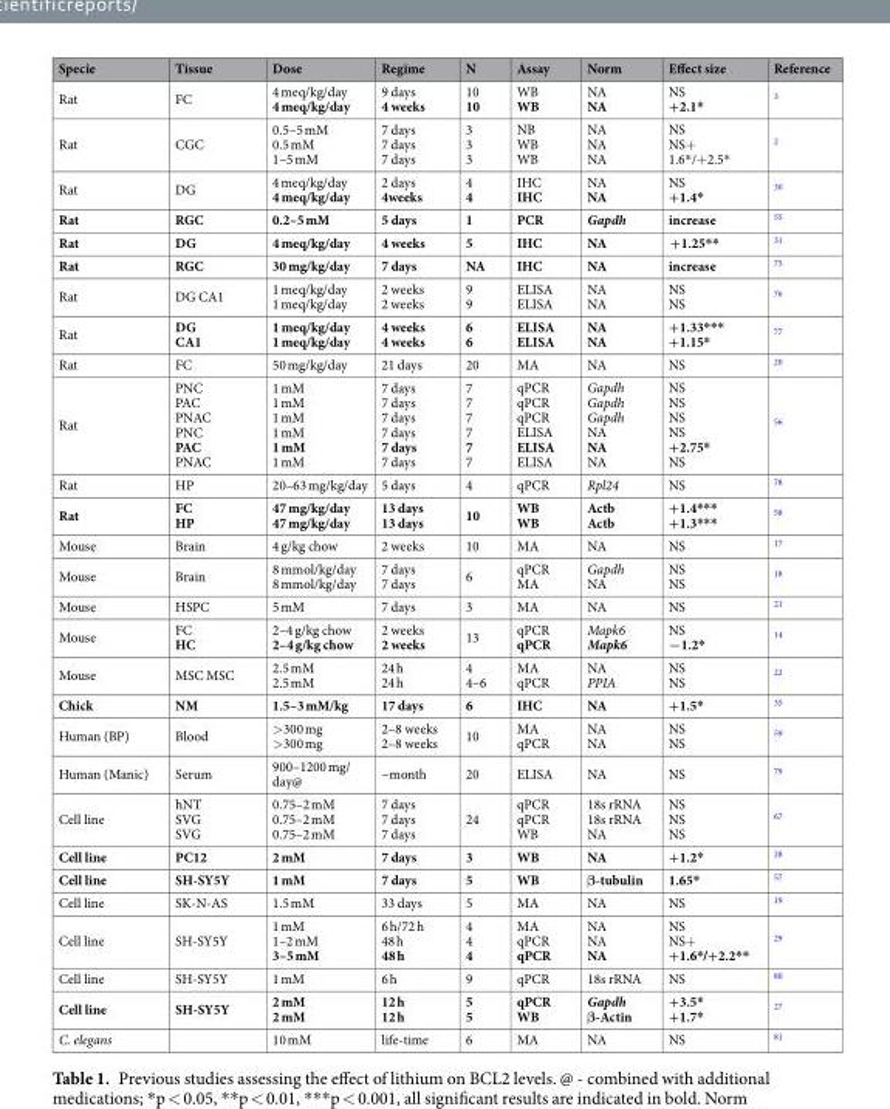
<table><thead><tr><td>Specie</td><td>Tissue</td><td>Dose</td><td>Regime</td><td>N</td><td>Assay</td><td>Norm</td><td>Effect size</td><td>Reference</td></tr></thead><tbody><tr><td>Rat</td><td>FC</td><td>4 meq/kg/day 4 meq/kg/day</td><td>9 days 4 weeks</td><td>10 10</td><td>WB WB</td><td>NA NA</td><td>NS +2.1*</td><td><sup>3</sup></td></tr><tr><td>Rat</td><td>CGC</td><td>0.5–5 mM 0.5 mM 1–5 mM</td><td>7 days 7 days 7 days</td><td>3 3 3</td><td>NB WB WB</td><td>NA NA NA</td><td>NS NS+ 1.6*/+2.5*</td><td><sup>2</sup></td></tr><tr><td>Rat</td><td>DG</td><td>4 meq/kg/day 4 meq/kg/day</td><td>2 days 4weeks</td><td>4 4</td><td>IHC IHC</td><td>NA NA</td><td>NS +1.4*</td><td><sup>30</sup></td></tr><tr><td>Rat</td><td>RGC</td><td>0.2–5 mM</td><td>5 days</td><td>1</td><td>PCR</td><td>Gapdh</td><td>increase</td><td><sup>55</sup></td></tr><tr><td>Rat</td><td>DG</td><td>4 meq/kg/day</td><td>4 weeks</td><td>5</td><td>IHC</td><td>NA</td><td>+1.25**</td><td><sup>31</sup></td></tr><tr><td>Rat</td><td>RGC</td><td>30 mg/kg/day</td><td>7 days</td><td>NA</td><td>IHC</td><td>NA</td><td>increase</td><td><sup>75</sup></td></tr><tr><td>Rat</td><td>DG CA1</td><td>1 meq/kg/day 1 meq/kg/day</td><td>2 weeks 2 weeks</td><td>9 9</td><td>ELISA ELISA</td><td>NA NA</td><td>NS NS</td><td><sup>76</sup></td></tr><tr><td>Rat</td><td>DG CA1</td><td>1 meq/kg/day 1 meq/kg/day</td><td>4 weeks 4 weeks</td><td>6 6</td><td>ELISA ELISA</td><td>NA NA</td><td>+1.33*** +1.15*</td><td><sup>77</sup></td></tr><tr><td>Rat</td><td>FC</td><td>50 mg/kg/day</td><td>21 days</td><td>20</td><td>MA</td><td>NA</td><td>NS</td><td><sup>20</sup></td></tr><tr><td>Rat</td><td>PNC PAC PNAC PNC PAC PNAC</td><td>1 mM 1 mM 1 mM 1 mM 1 mM 1 mM</td><td>7 days 7 days 7 days 7 days 7 days 7 days</td><td>7 7 7 7 7 7</td><td>qPCR qPCR qPCR ELISA ELISA ELISA</td><td>Gapdh Gapdh Gapdh NA NA NA</td><td>NS NS NS NS +2.75* NS</td><td><sup>56</sup></td></tr><tr><td>Rat</td><td>HP</td><td>20–63 mg/kg/day</td><td>5 days</td><td>4</td><td>qPCR</td><td>Rpl24</td><td>NS</td><td><sup>78</sup></td></tr><tr><td>Rat</td><td>FC HP</td><td>47 mg/kg/day 47 mg/kg/day</td><td>13 days 13 days</td><td>10</td><td>WB WB</td><td>Actb Actb</td><td>+1.4*** +1.3***</td><td><sup>58</sup></td></tr><tr><td>Mouse</td><td>Brain</td><td>4 g/kg chow</td><td>2 weeks</td><td>10</td><td>MA</td><td>NA</td><td>NS</td><td><sup>17</sup></td></tr><tr><td>Mouse</td><td>Brain</td><td>8 mmol/kg/day 8 mmol/kg/day</td><td>7 days 7 days</td><td>6</td><td>qPCR MA</td><td>Gapdh NA</td><td>NS NS</td><td><sup>18</sup></td></tr><tr><td>Mouse</td><td>HSPC</td><td>5 mM</td><td>7 days</td><td>3</td><td>MA</td><td>NA</td><td>NS</td><td><sup>21</sup></td></tr><tr><td>Mouse</td><td>FC HC</td><td>2–4 g/kg chow 2–4 g/kg chow</td><td>2 weeks 2 weeks</td><td>13</td><td>qPCR qPCR</td><td>Mapk6 Mapk6</td><td>NS −1.2*</td><td><sup>14</sup></td></tr><tr><td>Mouse</td><td>MSC MSC</td><td>2.5 mM 2.5 mM</td><td>24 h 24 h</td><td>4 4–6</td><td>MA qPCR</td><td>NA PPIA</td><td>NS NS</td><td><sup>22</sup></td></tr><tr><td>Chick</td><td>NM</td><td>1.5–3 mM/kg</td><td>17 days</td><td>6</td><td>IHC</td><td>NA</td><td>+1.5*</td><td><sup>35</sup></td></tr><tr><td>Human (BP)</td><td>Blood</td><td>&gt;300 mg &gt;300 mg</td><td>2–8 weeks 2–8 weeks</td><td>10</td><td>MA qPCR</td><td>NA NA</td><td>NS NS</td><td><sup>59</sup></td></tr><tr><td>Human (Manic)</td><td>Serum</td><td>900–1200 mg/ day@</td><td>~month</td><td>20</td><td>ELISA</td><td>NA</td><td>NS</td><td><sup>79</sup></td></tr><tr><td>Cell line</td><td>hNT SVG SVG</td><td>0.75–2 mM 0.75–2 mM 0.75–2 mM</td><td>7 days 7 days 7 days</td><td>24</td><td>qPCR qPCR WB</td><td>18s rRNA 18s rRNA NA</td><td>NS NS NS</td><td><sup>67</sup></td></tr><tr><td>Cell line</td><td>PC12</td><td>2 mM</td><td>7 days</td><td>3</td><td>WB</td><td>NA</td><td>+1.2*</td><td><sup>28</sup></td></tr><tr><td>Cell line</td><td>SH-SY5Y</td><td>1 mM</td><td>7 days</td><td>5</td><td>WB</td><td>β-tubulin</td><td>1.65*</td><td><sup>57</sup></td></tr><tr><td>Cell line</td><td>SK-N-AS</td><td>1.5 mM</td><td>33 days</td><td>5</td><td>MA</td><td>NA</td><td>NS</td><td><sup>19</sup></td></tr><tr><td>Cell line</td><td>SH-SY5Y</td><td>1 mM 1–2 mM 3–5 mM</td><td>6 h/72 h 48 h 48 h</td><td>4 4 4</td><td>MA qPCR qPCR</td><td>NA NA NA</td><td>NS NS+ +1.6*/+2.2**</td><td><sup>29</sup></td></tr><tr><td>Cell line</td><td>SH-SY5Y</td><td>1 mM</td><td>6 h</td><td>9</td><td>qPCR</td><td>18s rRNA</td><td>NS</td><td><sup>80</sup></td></tr><tr><td>Cell line</td><td>SH-SY5Y</td><td>2 mM 2 mM</td><td>12 h 12 h</td><td>5 5</td><td>qPCR WB</td><td>Gapdh β-Actin</td><td>+3.5* +1.7*</td><td><sup>27</sup></td></tr><tr><td>C. elegans</td><td></td><td>10 mM</td><td>life-time</td><td>6</td><td>MA</td><td>NA</td><td>NS</td><td><sup>81</sup></td></tr></tbody></table>